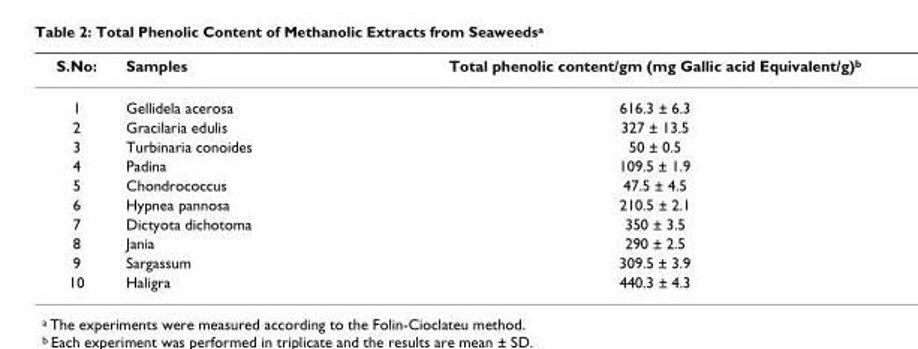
<table><thead><tr><td>S.No:</td><td>Samples</td><td>Total phenolic content/gm (mg Gallic acid Equivalent/g)<sup>b</sup></td></tr></thead><tbody><tr><td>1</td><td>Gellidela acerosa</td><td>616.3 ± 6.3</td></tr><tr><td>2</td><td>Gracilaria edulis</td><td>327 ± 13.5</td></tr><tr><td>3</td><td>Turbinaria conoides</td><td>50 ± 0.5</td></tr><tr><td>4</td><td>Padina</td><td>109.5 ± 1.9</td></tr><tr><td>5</td><td>Chondrococcus</td><td>47.5 ± 4.5</td></tr><tr><td>6</td><td>Hypnea pannosa</td><td>210.5 ± 2.1</td></tr><tr><td>7</td><td>Dictyota dichotoma</td><td>350 ± 3.5</td></tr><tr><td>8</td><td>Jania</td><td>290 ± 2.5</td></tr><tr><td>9</td><td>Sargassum</td><td>309.5 ± 3.9</td></tr><tr><td>10</td><td>Haligra</td><td>440.3 ± 4.3</td></tr></tbody></table>